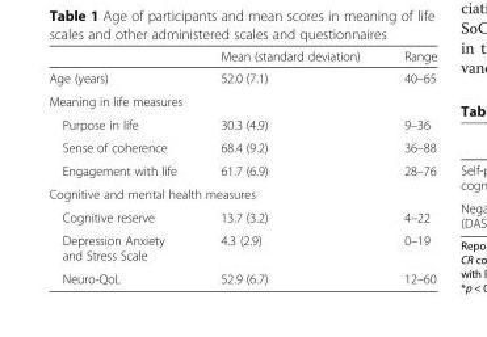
<table><thead><tr><td></td><td>Mean (standard deviation)</td><td>Range</td></tr></thead><tbody><tr><td>Age (years)</td><td>52.0 (7.1)</td><td>40–65</td></tr><tr><td colspan="3">Meaning in life measures</td></tr><tr><td>Purpose in life</td><td>30.3 (4.9)</td><td>9–36</td></tr><tr><td>Sense of coherence</td><td>68.4 (9.2)</td><td>36–88</td></tr><tr><td>Engagement with life</td><td>61.7 (6.9)</td><td>28–76</td></tr><tr><td colspan="3">Cognitive and mental health measures</td></tr><tr><td>Cognitive reserve</td><td>13.7 (3.2)</td><td>4–22</td></tr><tr><td>Depression Anxiety and Stress Scale</td><td>4.3 (2.9)</td><td>0–19</td></tr><tr><td>Neuro-QoL</td><td>52.9 (6.7)</td><td>12–60</td></tr></tbody></table>